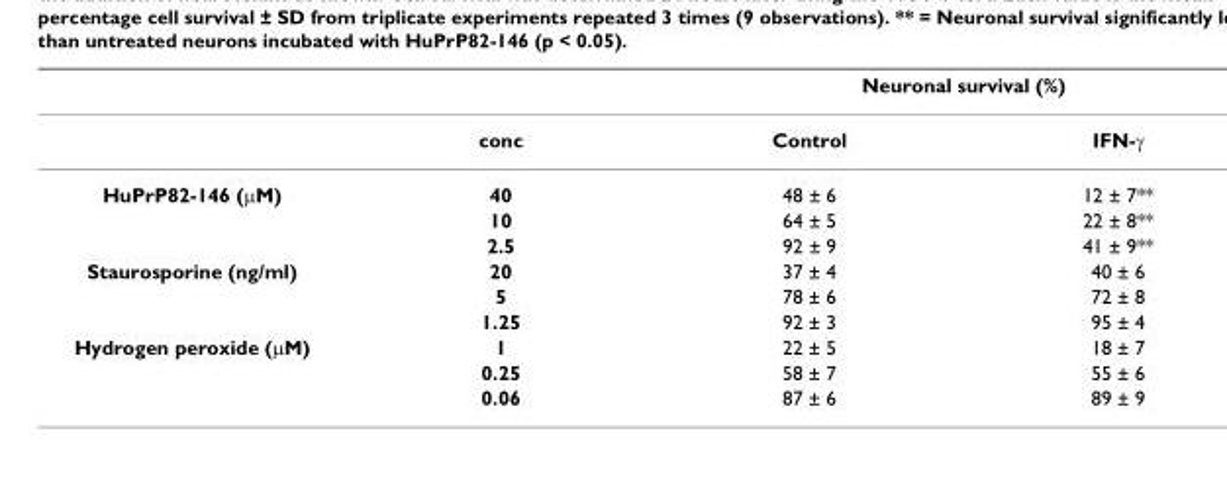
<table><thead><tr><td rowspan="2"></td><td rowspan="2">conc</td><td colspan="2">Neuronal survival (%)</td></tr><tr><td>Control</td><td>IFN-γ</td></tr></thead><tbody><tr><td rowspan="3">HuPrP82-146 (µM)</td><td>40</td><td>48 ± 6</td><td>12 ± 7**</td></tr><tr><td>10</td><td>64 ± 5</td><td>22 ± 8**</td></tr><tr><td>2.5</td><td>92 ± 9</td><td>41 ± 9**</td></tr><tr><td rowspan="3">Staurosporine (ng/ml)</td><td>20</td><td>37 ± 4</td><td>40 ± 6</td></tr><tr><td>5</td><td>78 ± 6</td><td>72 ± 8</td></tr><tr><td>1.25</td><td>92 ± 3</td><td>95 ± 4</td></tr><tr><td rowspan="3">Hydrogen peroxide (µM)</td><td>1</td><td>22 ± 5</td><td>18 ± 7</td></tr><tr><td>0.25</td><td>58 ± 7</td><td>55 ± 6</td></tr><tr><td>0.06</td><td>87 ± 6</td><td>89 ± 9</td></tr></tbody></table>